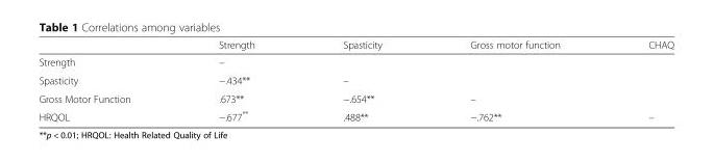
<table><thead><tr><td></td><td>Strength</td><td>Spasticity</td><td>Gross motor function</td><td>CHAQ</td></tr></thead><tbody><tr><td>Strength</td><td>–</td><td></td><td></td><td></td></tr><tr><td>Spasticity</td><td>−.434**</td><td>–</td><td></td><td></td></tr><tr><td>Gross Motor Function</td><td>.673**</td><td>−.654**</td><td>–</td><td></td></tr><tr><td>HRQOL</td><td>−.677**</td><td>.488**</td><td>−.762**</td><td>–</td></tr></tbody></table>